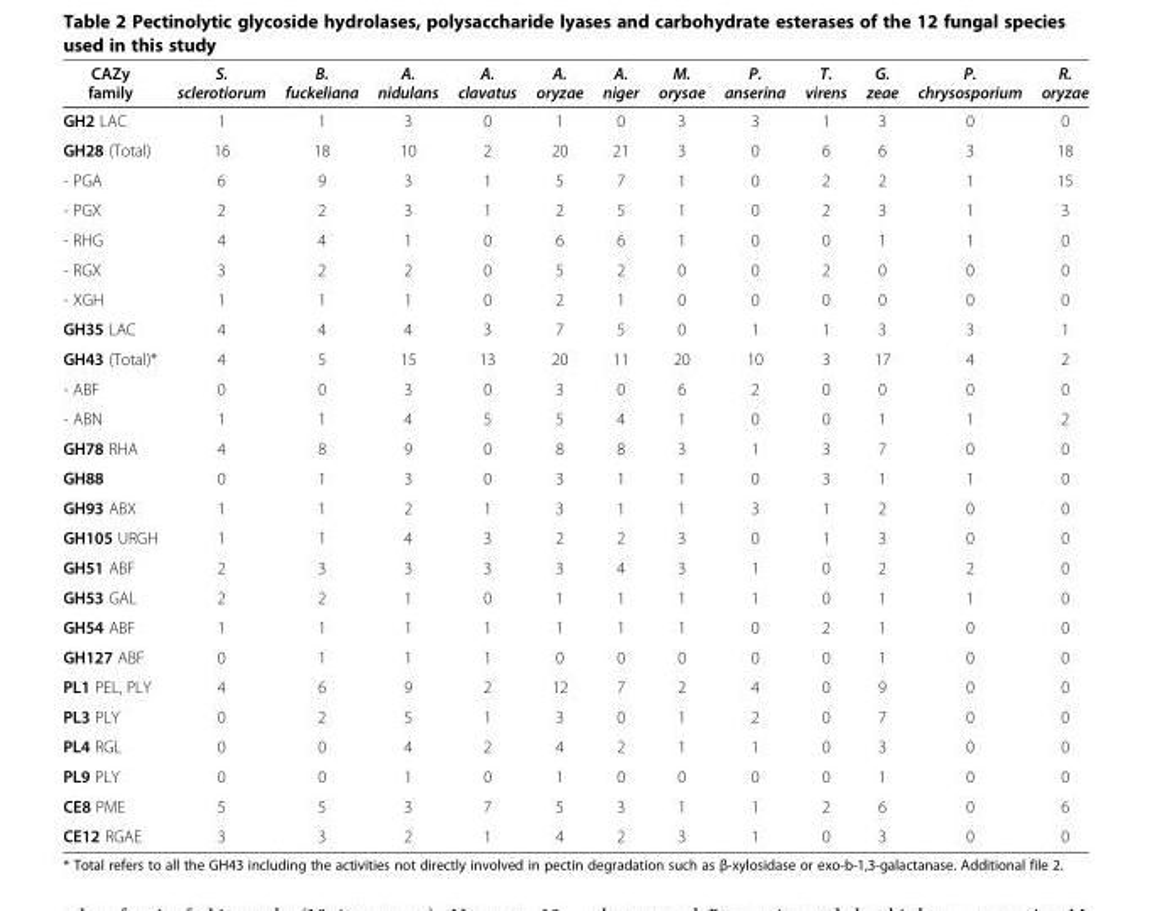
<table><thead><tr><td>CAZy family</td><td>S. sclerotiorum</td><td>B. fuckeliana</td><td>A. nidulans</td><td>A. clavatus</td><td>A. oryzae</td><td>A. niger</td><td>M. orysae</td><td>P. anserina</td><td>T. virens</td><td>G. zeae</td><td>P. chrysosporium</td><td>R. oryzae</td></tr></thead><tbody><tr><td>GH2 LAC</td><td>1</td><td>1</td><td>3</td><td>0</td><td>1</td><td>0</td><td>3</td><td>3</td><td>1</td><td>3</td><td>0</td><td>0</td></tr><tr><td>GH28 (Total)</td><td>16</td><td>18</td><td>10</td><td>2</td><td>20</td><td>21</td><td>3</td><td>0</td><td>6</td><td>6</td><td>3</td><td>18</td></tr><tr><td>- PGA</td><td>6</td><td>9</td><td>3</td><td>1</td><td>5</td><td>7</td><td>1</td><td>0</td><td>2</td><td>2</td><td>1</td><td>15</td></tr><tr><td>- PGX</td><td>2</td><td>2</td><td>3</td><td>1</td><td>2</td><td>5</td><td>1</td><td>0</td><td>2</td><td>3</td><td>1</td><td>3</td></tr><tr><td>- RHG</td><td>4</td><td>4</td><td>1</td><td>0</td><td>6</td><td>6</td><td>1</td><td>0</td><td>0</td><td>1</td><td>1</td><td>0</td></tr><tr><td>- RGX</td><td>3</td><td>2</td><td>2</td><td>0</td><td>5</td><td>2</td><td>0</td><td>0</td><td>2</td><td>0</td><td>0</td><td>0</td></tr><tr><td>- XGH</td><td>1</td><td>1</td><td>1</td><td>0</td><td>2</td><td>1</td><td>0</td><td>0</td><td>0</td><td>0</td><td>0</td><td>0</td></tr><tr><td>GH35 LAC</td><td>4</td><td>4</td><td>4</td><td>3</td><td>7</td><td>5</td><td>0</td><td>1</td><td>1</td><td>3</td><td>3</td><td>1</td></tr><tr><td>GH43 (Total)*</td><td>4</td><td>5</td><td>15</td><td>13</td><td>20</td><td>11</td><td>20</td><td>10</td><td>3</td><td>17</td><td>4</td><td>2</td></tr><tr><td>- ABF</td><td>0</td><td>0</td><td>3</td><td>0</td><td>3</td><td>0</td><td>6</td><td>2</td><td>0</td><td>0</td><td>0</td><td>0</td></tr><tr><td>- ABN</td><td>1</td><td>1</td><td>4</td><td>5</td><td>5</td><td>4</td><td>1</td><td>0</td><td>0</td><td>1</td><td>1</td><td>2</td></tr><tr><td>GH78 RHA</td><td>4</td><td>8</td><td>9</td><td>0</td><td>8</td><td>8</td><td>3</td><td>1</td><td>3</td><td>7</td><td>0</td><td>0</td></tr><tr><td>GH88</td><td>0</td><td>1</td><td>3</td><td>0</td><td>3</td><td>1</td><td>1</td><td>0</td><td>3</td><td>1</td><td>1</td><td>0</td></tr><tr><td>GH93 ABX</td><td>1</td><td>1</td><td>2</td><td>1</td><td>3</td><td>1</td><td>1</td><td>3</td><td>1</td><td>2</td><td>0</td><td>0</td></tr><tr><td>GH105 URGH</td><td>1</td><td>1</td><td>4</td><td>3</td><td>2</td><td>2</td><td>3</td><td>0</td><td>1</td><td>3</td><td>0</td><td>0</td></tr><tr><td>GH51 ABF</td><td>2</td><td>3</td><td>3</td><td>3</td><td>3</td><td>4</td><td>3</td><td>1</td><td>0</td><td>2</td><td>2</td><td>0</td></tr><tr><td>GH53 GAL</td><td>2</td><td>2</td><td>1</td><td>0</td><td>1</td><td>1</td><td>1</td><td>1</td><td>0</td><td>1</td><td>1</td><td>0</td></tr><tr><td>GH54 ABF</td><td>1</td><td>1</td><td>1</td><td>1</td><td>1</td><td>1</td><td>1</td><td>0</td><td>2</td><td>1</td><td>0</td><td>0</td></tr><tr><td>GH127 ABF</td><td>0</td><td>1</td><td>1</td><td>1</td><td>0</td><td>0</td><td>0</td><td>0</td><td>0</td><td>1</td><td>0</td><td>0</td></tr><tr><td>PL1 PEL, PLY</td><td>4</td><td>6</td><td>9</td><td>2</td><td>12</td><td>7</td><td>2</td><td>4</td><td>0</td><td>9</td><td>0</td><td>0</td></tr><tr><td>PL3 PLY</td><td>0</td><td>2</td><td>5</td><td>1</td><td>3</td><td>0</td><td>1</td><td>2</td><td>0</td><td>7</td><td>0</td><td>0</td></tr><tr><td>PL4 RGL</td><td>0</td><td>0</td><td>4</td><td>2</td><td>4</td><td>2</td><td>1</td><td>1</td><td>0</td><td>3</td><td>0</td><td>0</td></tr><tr><td>PL9 PLY</td><td>0</td><td>0</td><td>1</td><td>0</td><td>1</td><td>0</td><td>0</td><td>0</td><td>0</td><td>1</td><td>0</td><td>0</td></tr><tr><td>CE8 PME</td><td>5</td><td>5</td><td>3</td><td>7</td><td>5</td><td>3</td><td>1</td><td>1</td><td>2</td><td>6</td><td>0</td><td>6</td></tr><tr><td>CE12 RGAE</td><td>3</td><td>3</td><td>2</td><td>1</td><td>4</td><td>2</td><td>3</td><td>1</td><td>0</td><td>3</td><td>0</td><td>0</td></tr></tbody></table>